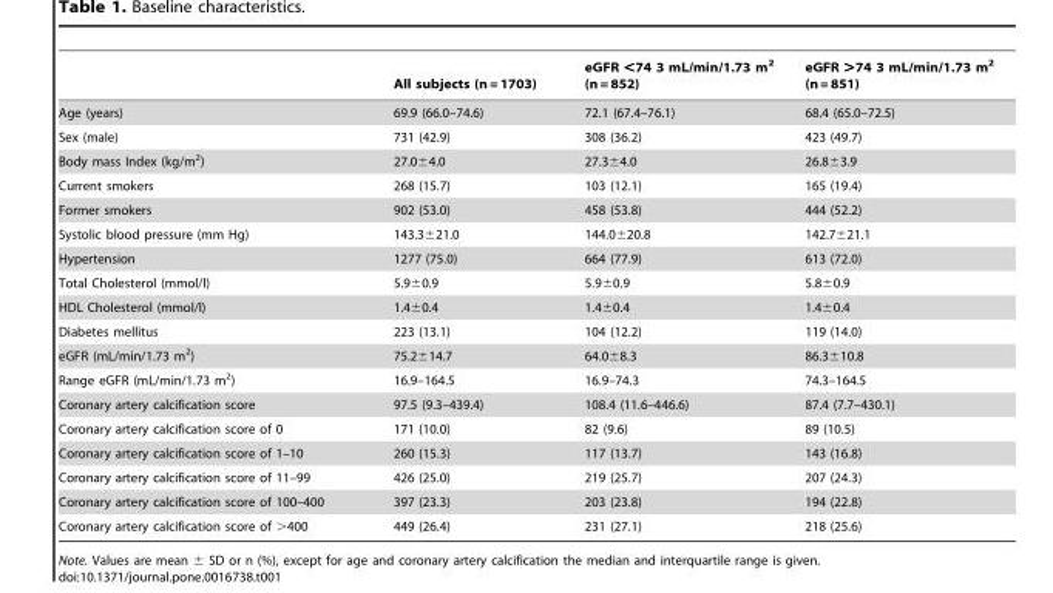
<table><thead><tr><td></td><td>All subjects (n = 1703)</td><td>eGFR &lt;74 3 mL/min/1.73 m<sup>2</sup> (n = 852)</td><td>eGFR &gt;74 3 mL/min/1.73 m<sup>2</sup> (n = 851)</td></tr></thead><tbody><tr><td>Age (years)</td><td>69.9 (66.0–74.6)</td><td>72.1 (67.4–76.1)</td><td>68.4 (65.0–72.5)</td></tr><tr><td>Sex (male)</td><td>731 (42.9)</td><td>308 (36.2)</td><td>423 (49.7)</td></tr><tr><td>Body mass Index (kg/m<sup>2</sup>)</td><td>27.0±4.0</td><td>27.3±4.0</td><td>26.8±3.9</td></tr><tr><td>Current smokers</td><td>268 (15.7)</td><td>103 (12.1)</td><td>165 (19.4)</td></tr><tr><td>Former smokers</td><td>902 (53.0)</td><td>458 (53.8)</td><td>444 (52.2)</td></tr><tr><td>Systolic blood pressure (mm Hg)</td><td>143.3±21.0</td><td>144.0±20.8</td><td>142.7±21.1</td></tr><tr><td>Hypertension</td><td>1277 (75.0)</td><td>664 (77.9)</td><td>613 (72.0)</td></tr><tr><td>Total Cholesterol (mmol/l)</td><td>5.9±0.9</td><td>5.9±0.9</td><td>5.8±0.9</td></tr><tr><td>HDL Cholesterol (mmol/l)</td><td>1.4±0.4</td><td>1.4±0.4</td><td>1.4±0.4</td></tr><tr><td>Diabetes mellitus</td><td>223 (13.1)</td><td>104 (12.2)</td><td>119 (14.0)</td></tr><tr><td>eGFR (mL/min/1.73 m<sup>2</sup>)</td><td>75.2±14.7</td><td>64.0±8.3</td><td>86.3±10.8</td></tr><tr><td>Range eGFR (mL/min/1.73 m<sup>2</sup>)</td><td>16.9–164.5</td><td>16.9–74.3</td><td>74.3–164.5</td></tr><tr><td>Coronary artery calcification score</td><td>97.5 (9.3–439.4)</td><td>108.4 (11.6–446.6)</td><td>87.4 (7.7–430.1)</td></tr><tr><td>Coronary artery calcification score of 0</td><td>171 (10.0)</td><td>82 (9.6)</td><td>89 (10.5)</td></tr><tr><td>Coronary artery calcification score of 1–10</td><td>260 (15.3)</td><td>117 (13.7)</td><td>143 (16.8)</td></tr><tr><td>Coronary artery calcification score of 11–99</td><td>426 (25.0)</td><td>219 (25.7)</td><td>207 (24.3)</td></tr><tr><td>Coronary artery calcification score of 100–400</td><td>397 (23.3)</td><td>203 (23.8)</td><td>194 (22.8)</td></tr><tr><td>Coronary artery calcification score of &gt;400</td><td>449 (26.4)</td><td>231 (27.1)</td><td>218 (25.6)</td></tr></tbody></table>